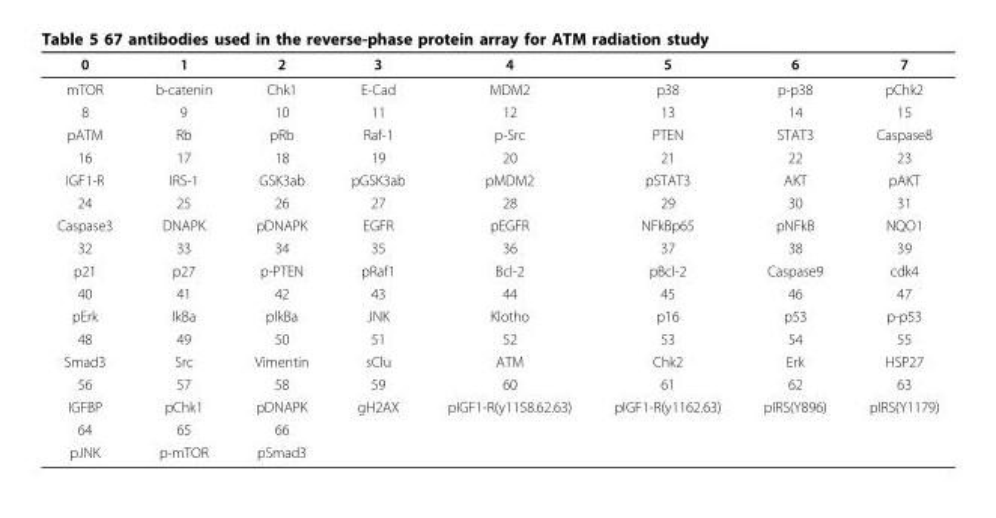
<table><thead><tr><td>0</td><td>1</td><td>2</td><td>3</td><td>4</td><td>5</td><td>6</td><td>7</td></tr></thead><tbody><tr><td>mTOR</td><td>b-catenin</td><td>Chk1</td><td>E-Cad</td><td>MDM2</td><td>p38</td><td>p-p38</td><td>pChk2</td></tr><tr><td>8</td><td>9</td><td>10</td><td>11</td><td>12</td><td>13</td><td>14</td><td>15</td></tr><tr><td>pATM</td><td>Rb</td><td>pRb</td><td>Raf-1</td><td>p-Src</td><td>PTEN</td><td>STAT3</td><td>Caspase8</td></tr><tr><td>16</td><td>17</td><td>18</td><td>19</td><td>20</td><td>21</td><td>22</td><td>23</td></tr><tr><td>IGF1-R</td><td>IRS-1</td><td>GSK3ab</td><td>pGSK3ab</td><td>pMDM2</td><td>pSTAT3</td><td>AKT</td><td>pAKT</td></tr><tr><td>24</td><td>25</td><td>26</td><td>27</td><td>28</td><td>29</td><td>30</td><td>31</td></tr><tr><td>Caspase3</td><td>DNAPK</td><td>pDNAPK</td><td>EGFR</td><td>pEGFR</td><td>NFkBp65</td><td>pNFkB</td><td>NQO1</td></tr><tr><td>32</td><td>33</td><td>34</td><td>35</td><td>36</td><td>37</td><td>38</td><td>39</td></tr><tr><td>p21</td><td>p27</td><td>p-PTEN</td><td>pRaf1</td><td>Bcl-2</td><td>pBcl-2</td><td>Caspase9</td><td>cdk4</td></tr><tr><td>40</td><td>41</td><td>42</td><td>43</td><td>44</td><td>45</td><td>46</td><td>47</td></tr><tr><td>pErk</td><td>lkBa</td><td>plkBa</td><td>JNK</td><td>Klotho</td><td>p16</td><td>p53</td><td>p-p53</td></tr><tr><td>48</td><td>49</td><td>50</td><td>51</td><td>52</td><td>53</td><td>54</td><td>55</td></tr><tr><td>Smad3</td><td>Src</td><td>Vimentin</td><td>sClu</td><td>ATM</td><td>Chk2</td><td>Erk</td><td>HSP27</td></tr><tr><td>56</td><td>57</td><td>58</td><td>59</td><td>60</td><td>61</td><td>62</td><td>63</td></tr><tr><td>IGFBP</td><td>pChk1</td><td>pDNAPK</td><td>gH2AX</td><td>pIGF1-R(y1158.62.63)</td><td>pIGF1-R(y1162.63)</td><td>pIRS(Y896)</td><td>pIRS(Y1179)</td></tr><tr><td>64</td><td>65</td><td>66</td><td></td><td></td><td></td><td></td><td></td></tr><tr><td>pJNK</td><td>p-mTOR</td><td>pSmad3</td><td></td><td></td><td></td><td></td><td></td></tr></tbody></table>